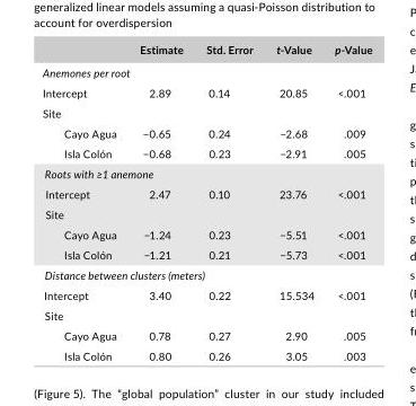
<table><thead><tr><td></td><td>Estimate</td><td>Std. Error</td><td>t- Value</td><td>p-Value</td></tr></thead><tbody><tr><td colspan="5">Anemones per root</td></tr><tr><td>Intercept</td><td>2.89</td><td>0.14</td><td>20.85</td><td>&lt;.001</td></tr><tr><td colspan="5">Site</td></tr><tr><td>Cayo Agua</td><td>−0.65</td><td>0.24</td><td>−2.68</td><td>.009</td></tr><tr><td>Isla Colón</td><td>−0.68</td><td>0.23</td><td>−2.91</td><td>.005</td></tr><tr><td colspan="5">Roots with ≥1 anemone</td></tr><tr><td>Intercept</td><td>2.47</td><td>0.10</td><td>23.76</td><td>&lt;.001</td></tr><tr><td colspan="5">Site</td></tr><tr><td>Cayo Agua</td><td>−1.24</td><td>0.23</td><td>−5.51</td><td>&lt;.001</td></tr><tr><td>Isla Colón</td><td>−1.21</td><td>0.21</td><td>−5.73</td><td>&lt;.001</td></tr><tr><td colspan="5">Distance between clusters (meters)</td></tr><tr><td>Intercept</td><td>3.40</td><td>0.22</td><td>15.534</td><td>&lt;.001</td></tr><tr><td colspan="5">Site</td></tr><tr><td>Cayo Agua</td><td>0.78</td><td>0.27</td><td>2.90</td><td>.005</td></tr><tr><td>Isla Colón</td><td>0.80</td><td>0.26</td><td>3.05</td><td>.003</td></tr></tbody></table>